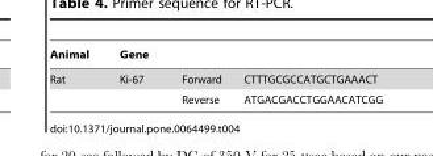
<table><thead><tr><td>Animal</td><td>Gene</td><td></td><td></td></tr></thead><tbody><tr><td rowspan="2">Rat</td><td>Ki-67</td><td>Forward</td><td>CTTTGCGCCATGCTGAAACT</td></tr><tr><td></td><td>Reverse</td><td>ATGACGACCTGGAACATCGG</td></tr></tbody></table>